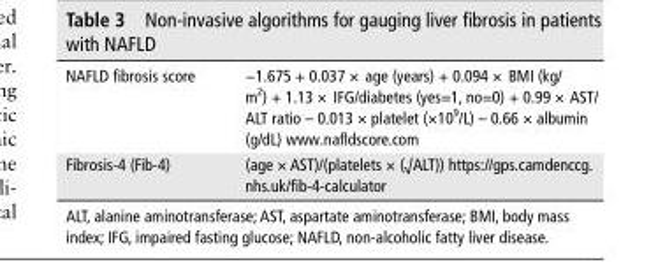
<table><tbody><tr><td>NAFLD fibrosis score</td><td>−1.675 + 0.037 × age (years) + 0.094 × BMI (kg/ m<sup>2</sup>) + 1.13 × IFG/diabetes (yes=1, no=0) + 0.99 × AST/ ALT ratio – 0.013 × platelet (×10<sup>9</sup>/L) – 0.66 × albumin (g/dL) www.nafldscore.com</td></tr><tr><td>Fibrosis-4 (Fib-4)</td><td>(age × AST)/(platelets × (√ALT)) https://gps.camdenccg. nhs.uk/fib-4-calculator</td></tr></tbody></table>